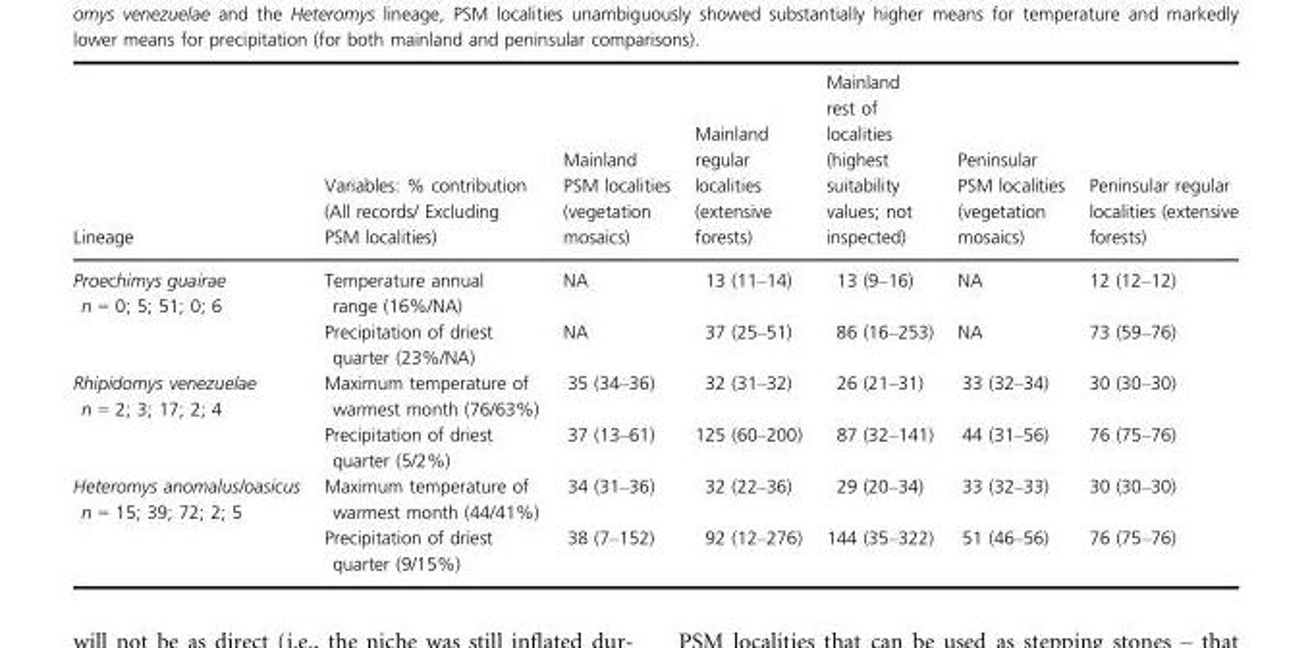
<table><thead><tr><td>Lineage</td><td>Variables: % contribution (All records/ Excluding PSM localities)</td><td>Mainland PSM localities (vegetation mosaics)</td><td>Mainland regular localities (extensive forests)</td><td>Mainland rest of localities (highest suitability values; not inspected)</td><td>Peninsular PSM localities (vegetation mosaics)</td><td>Peninsular regular localities (extensive forests)</td></tr></thead><tbody><tr><td rowspan="2">Proechimys guairae n = 0; 5; 51; 0; 6</td><td>Temperature annual range (16%/NA)</td><td>NA</td><td>13 (11–14)</td><td>13 (9–16)</td><td>NA</td><td>12 (12–12)</td></tr><tr><td>Precipitation of driest quarter (23%/NA)</td><td>NA</td><td>37 (25–51)</td><td>86 (16–253)</td><td>NA</td><td>73 (59–76)</td></tr><tr><td rowspan="2">Rhipidomys venezuelae n = 2; 3; 17; 2; 4</td><td>Maximum temperature of warmest month (76/63%)</td><td>35 (34–36)</td><td>32 (31–32)</td><td>26 (21–31)</td><td>33 (32–34)</td><td>30 (30–30)</td></tr><tr><td>Precipitation of driest quarter (5/2%)</td><td>37 (13–61)</td><td>125 (60–200)</td><td>87 (32–141)</td><td>44 (31–56)</td><td>76 (75–76)</td></tr><tr><td rowspan="2">Heteromys anomalus/oasicus n = 15; 39; 72; 2; 5</td><td>Maximum temperature of warmest month (44/41%)</td><td>34 (31–36)</td><td>32 (22–36)</td><td>29 (20–34)</td><td>33 (32–33)</td><td>30 (30–30)</td></tr><tr><td>Precipitation of driest quarter (9/15%)</td><td>38 (7–152)</td><td>92 (12–276)</td><td>144 (35–322)</td><td>51 (46–56)</td><td>76 (75–76)</td></tr></tbody></table>